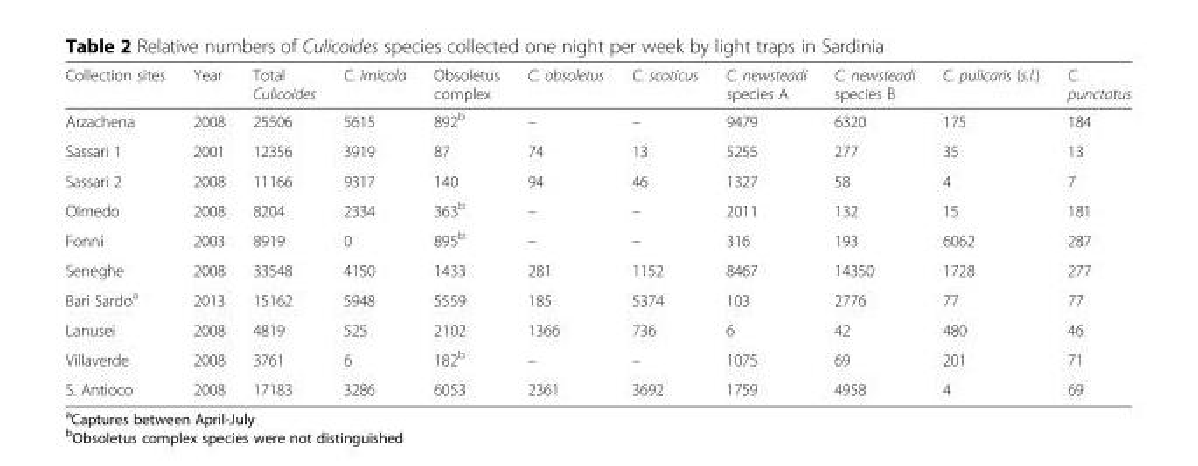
<table><thead><tr><td>Collection sites</td><td>Year</td><td>Total Culicoides</td><td>C. imicola</td><td>Obsoletus complex</td><td>C. obsoletus</td><td>C. scoticus</td><td>C. newsteadi species A</td><td>C. newsteadi species B</td><td>C. pulicaris (s.l.)</td><td>C. punctatus</td></tr></thead><tbody><tr><td>Arzachena</td><td>2008</td><td>25506</td><td>5615</td><td>892<sup>b</sup></td><td>–</td><td>–</td><td>9479</td><td>6320</td><td>175</td><td>184</td></tr><tr><td>Sassari 1</td><td>2001</td><td>12356</td><td>3919</td><td>87</td><td>74</td><td>13</td><td>5255</td><td>277</td><td>35</td><td>13</td></tr><tr><td>Sassari 2</td><td>2008</td><td>11166</td><td>9317</td><td>140</td><td>94</td><td>46</td><td>1327</td><td>58</td><td>4</td><td>7</td></tr><tr><td>Olmedo</td><td>2008</td><td>8204</td><td>2334</td><td>363<sup>b</sup></td><td>–</td><td>–</td><td>2011</td><td>132</td><td>15</td><td>181</td></tr><tr><td>Fonni</td><td>2003</td><td>8919</td><td>0</td><td>895<sup>b</sup></td><td>–</td><td>–</td><td>316</td><td>193</td><td>6062</td><td>287</td></tr><tr><td>Seneghe</td><td>2008</td><td>33548</td><td>4150</td><td>1433</td><td>281</td><td>1152</td><td>8467</td><td>14350</td><td>1728</td><td>277</td></tr><tr><td>Bari Sardo<sup>a</sup></td><td>2013</td><td>15162</td><td>5948</td><td>5559</td><td>185</td><td>5374</td><td>103</td><td>2776</td><td>77</td><td>77</td></tr><tr><td>Lanusei</td><td>2008</td><td>4819</td><td>525</td><td>2102</td><td>1366</td><td>736</td><td>6</td><td>42</td><td>480</td><td>46</td></tr><tr><td>Villaverde</td><td>2008</td><td>3761</td><td>6</td><td>182<sup>b</sup></td><td>–</td><td>–</td><td>1075</td><td>69</td><td>201</td><td>71</td></tr><tr><td>S. Antioco</td><td>2008</td><td>17183</td><td>3286</td><td>6053</td><td>2361</td><td>3692</td><td>1759</td><td>4958</td><td>4</td><td>69</td></tr></tbody></table>